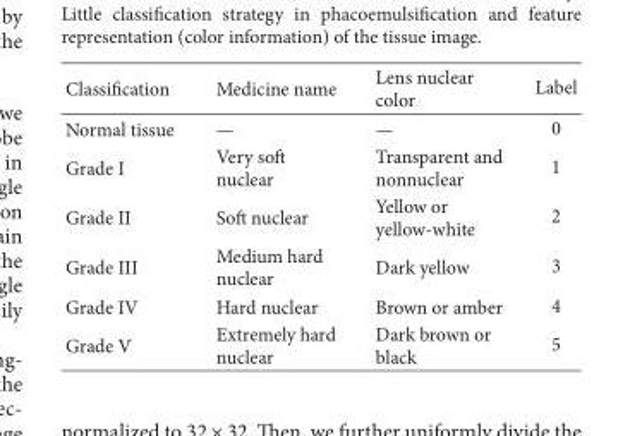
<table><thead><tr><td>Classification</td><td>Medicine name</td><td>Lens nuclear color</td><td>Label</td></tr></thead><tbody><tr><td>Normal tissue</td><td>—</td><td>—</td><td>0</td></tr><tr><td>Grade I</td><td>Very soft nuclear</td><td>Transparent and nonnuclear</td><td>1</td></tr><tr><td>Grade II</td><td>Soft nuclear</td><td>Yellow or yellow-white</td><td>2</td></tr><tr><td>Grade III</td><td>Medium hard nuclear</td><td>Dark yellow</td><td>3</td></tr><tr><td>Grade IV</td><td>Hard nuclear</td><td>Brown or amber</td><td>4</td></tr><tr><td>Grade V</td><td>Extremely hard nuclear</td><td>Dark brown or black</td><td>5</td></tr></tbody></table>